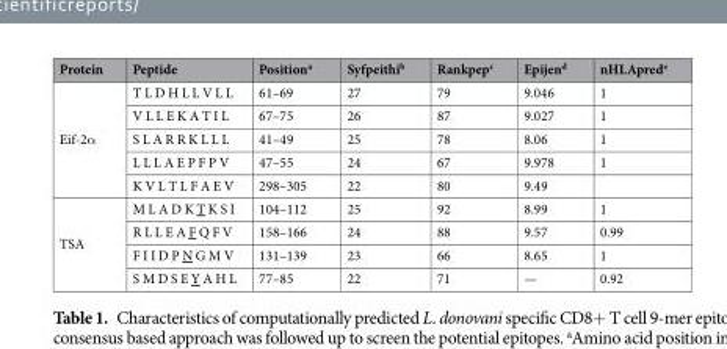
<table><thead><tr><td>Protein</td><td>Peptide</td><td>Position<sup>a</sup></td><td>Syfpeithi<sup>b</sup></td><td>Rankpep<sup>c</sup></td><td>Epijen<sup>d</sup></td><td>nHLApred<sup>e</sup></td></tr></thead><tbody><tr><td rowspan="5">Eif-2α</td><td>T L D H L L V L L</td><td>61–69</td><td>27</td><td>79</td><td>9.046</td><td>1</td></tr><tr><td>V L L E K A T I L</td><td>67–75</td><td>26</td><td>87</td><td>9.027</td><td>1</td></tr><tr><td>S L A R R K L L L</td><td>41–49</td><td>25</td><td>78</td><td>8.06</td><td>1</td></tr><tr><td>L L L A E P F P V</td><td>47–55</td><td>24</td><td>67</td><td>9.978</td><td>1</td></tr><tr><td>K V L T L F A E V</td><td>298–305</td><td>22</td><td>80</td><td>9.49</td><td></td></tr><tr><td rowspan="4">TSA</td><td>M L A D K T K S I</td><td>104–112</td><td>25</td><td>92</td><td>8.99</td><td>1</td></tr><tr><td>R L L E A F Q F V</td><td>158–166</td><td>24</td><td>88</td><td>9.57</td><td>0.99</td></tr><tr><td>F I I D P N G M V</td><td>131–139</td><td>23</td><td>66</td><td>8.65</td><td>1</td></tr><tr><td>S M D S E Y A H L</td><td>77–85</td><td>22</td><td>71</td><td>—</td><td>0.92</td></tr></tbody></table>